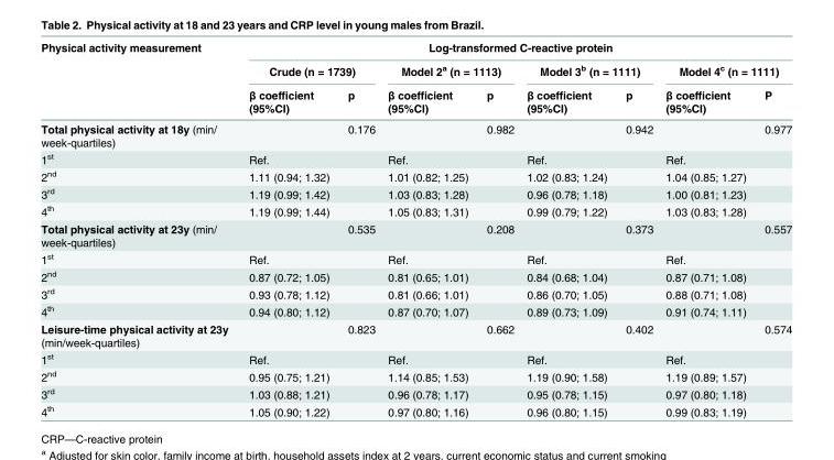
<table><thead><tr><td rowspan="3">Physical activity measurement</td><td colspan="8">Log-transformed C-reactive protein</td></tr><tr><td colspan="2">Crude (n = 1739)</td><td colspan="2">Model 2<sup>a</sup> (n = 1113)</td><td colspan="2">Model 3<sup>b</sup> (n = 1111)</td><td colspan="2">Model 4<sup>c</sup> (n = 1111)</td></tr><tr><td>β coefficient (95%CI)</td><td>p</td><td>β coefficient (95%CI)</td><td>p</td><td>β coefficient (95%CI)</td><td>p</td><td>β coefficient (95%CI)</td><td>P</td></tr></thead><tbody><tr><td>Total physical activity at 18y (min/ week-quartiles)</td><td></td><td>0.176</td><td></td><td>0.982</td><td></td><td>0.942</td><td></td><td>0.977</td></tr><tr><td>1<sup>st</sup></td><td>Ref.</td><td></td><td>Ref.</td><td></td><td>Ref.</td><td></td><td>Ref.</td><td></td></tr><tr><td>2<sup>nd</sup></td><td>1.11 (0.94; 1.32)</td><td></td><td>1.01 (0.82; 1.25)</td><td></td><td>1.02 (0.83; 1.24)</td><td></td><td>1.04 (0.85; 1.27)</td><td></td></tr><tr><td>3<sup>rd</sup></td><td>1.19 (0.99; 1.42)</td><td></td><td>1.03 (0.83; 1.28)</td><td></td><td>0.96 (0.78; 1.18)</td><td></td><td>1.00 (0.81; 1.23)</td><td></td></tr><tr><td>4<sup>th</sup></td><td>1.19 (0.99; 1.44)</td><td></td><td>1.05 (0.83; 1.31)</td><td></td><td>0.99 (0.79; 1.22)</td><td></td><td>1.03 (0.83; 1.28)</td><td></td></tr><tr><td>Total physical activity at 23y (min/ week-quartiles)</td><td></td><td>0.535</td><td></td><td>0.208</td><td></td><td>0.373</td><td></td><td>0.557</td></tr><tr><td>1<sup>st</sup></td><td>Ref.</td><td></td><td>Ref.</td><td></td><td>Ref.</td><td></td><td>Ref.</td><td></td></tr><tr><td>2<sup>nd</sup></td><td>0.87 (0.72; 1.05)</td><td></td><td>0.81 (0.65; 1.01)</td><td></td><td>0.84 (0.68; 1.04)</td><td></td><td>0.87 (0.71; 1.08)</td><td></td></tr><tr><td>3<sup>rd</sup></td><td>0.93 (0.78; 1.12)</td><td></td><td>0.81 (0.66; 1.01)</td><td></td><td>0.86 (0.70; 1.05)</td><td></td><td>0.88 (0.71; 1.08)</td><td></td></tr><tr><td>4<sup>th</sup></td><td>0.94 (0.80; 1.12)</td><td></td><td>0.87 (0.70; 1.07)</td><td></td><td>0.89 (0.73; 1.09)</td><td></td><td>0.91 (0.74; 1.11)</td><td></td></tr><tr><td>Leisure-time physical activity at 23y (min/week-quartiles)</td><td></td><td>0.823</td><td></td><td>0.662</td><td></td><td>0.402</td><td></td><td>0.574</td></tr><tr><td>1<sup>st</sup></td><td>Ref.</td><td></td><td>Ref.</td><td></td><td>Ref.</td><td></td><td>Ref.</td><td></td></tr><tr><td>2<sup>nd</sup></td><td>0.95 (0.75; 1.21)</td><td></td><td>1.14 (0.85; 1.53)</td><td></td><td>1.19 (0.90; 1.58)</td><td></td><td>1.19 (0.89; 1.57)</td><td></td></tr><tr><td>3<sup>rd</sup></td><td>1.03 (0.88; 1.21)</td><td></td><td>0.96 (0.78; 1.17)</td><td></td><td>0.95 (0.78; 1.15)</td><td></td><td>0.97 (0.80; 1.18)</td><td></td></tr><tr><td>4<sup>th</sup></td><td>1.05 (0.90; 1.22)</td><td></td><td>0.97 (0.80; 1.16)</td><td></td><td>0.96 (0.80; 1.15)</td><td></td><td>0.99 (0.83; 1.19)</td><td></td></tr></tbody></table>